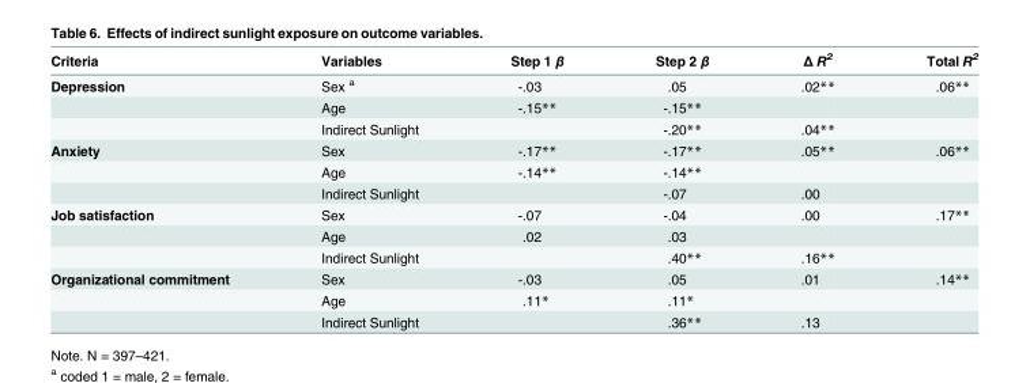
<table><thead><tr><td>Criteria</td><td>Variables</td><td>Step 1 β</td><td>Step 2 β</td><td>Δ R<sup>2</sup></td><td>Total R<sup>2</sup></td></tr></thead><tbody><tr><td rowspan="3">Depression</td><td>Sex <sup>a</sup></td><td>-.03</td><td>.05</td><td>.02**</td><td>.06**</td></tr><tr><td>Age</td><td>-.15**</td><td>-.15**</td><td></td><td></td></tr><tr><td>Indirect Sunlight</td><td></td><td>-.20**</td><td>.04**</td><td></td></tr><tr><td rowspan="3">Anxiety</td><td>Sex</td><td>-.17**</td><td>-.17**</td><td>.05**</td><td>.06**</td></tr><tr><td>Age</td><td>-.14**</td><td>-.14**</td><td></td><td></td></tr><tr><td>Indirect Sunlight</td><td></td><td>-.07</td><td>.00</td><td></td></tr><tr><td rowspan="3">Job satisfaction</td><td>Sex</td><td>-.07</td><td>-.04</td><td>.00</td><td>.17**</td></tr><tr><td>Age</td><td>.02</td><td>.03</td><td></td><td></td></tr><tr><td>Indirect Sunlight</td><td></td><td>.40**</td><td>.16**</td><td></td></tr><tr><td rowspan="3">Organizational commitment</td><td>Sex</td><td>-.03</td><td>.05</td><td>.01</td><td>.14**</td></tr><tr><td>Age</td><td>.11*</td><td>.11*</td><td></td><td></td></tr><tr><td>Indirect Sunlight</td><td></td><td>.36**</td><td>.13</td><td></td></tr></tbody></table>